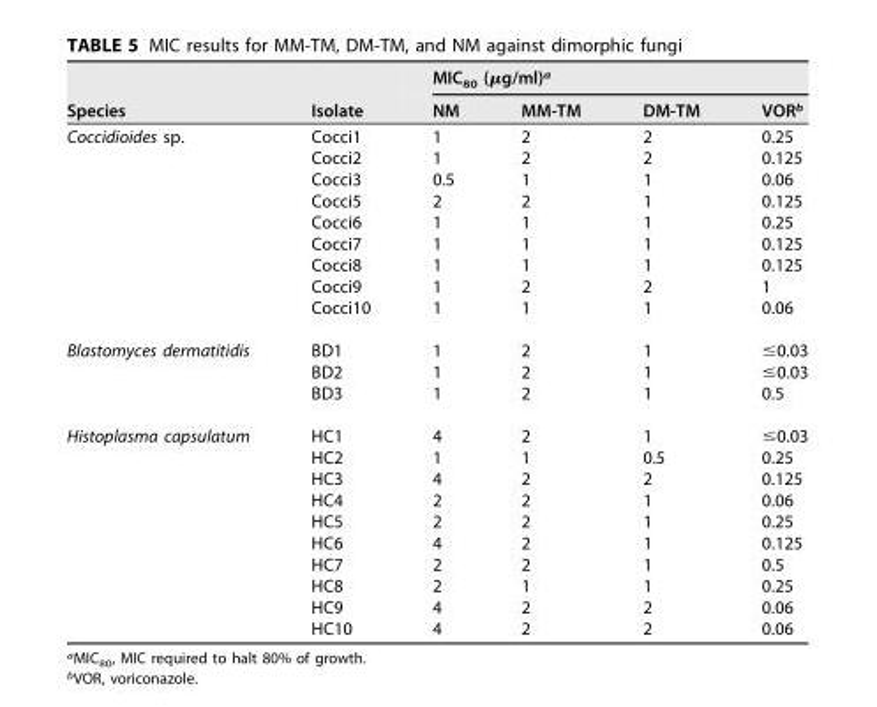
<table><thead><tr><td rowspan="2">Species</td><td rowspan="2">Isolate</td><td colspan="4">MIC<sub>80</sub> (µg/ml)<sup>a</sup></td></tr><tr><td>NM</td><td>MM-TM</td><td>DM-TM</td><td>VOR<sup>b</sup></td></tr></thead><tbody><tr><td rowspan="9">Coccidioides sp.</td><td>Cocci1</td><td>1</td><td>2</td><td>2</td><td>0.25</td></tr><tr><td>Cocci2</td><td>1</td><td>2</td><td>2</td><td>0.125</td></tr><tr><td>Cocci3</td><td>0.5</td><td>1</td><td>1</td><td>0.06</td></tr><tr><td>Cocci5</td><td>2</td><td>2</td><td>1</td><td>0.125</td></tr><tr><td>Cocci6</td><td>1</td><td>1</td><td>1</td><td>0.25</td></tr><tr><td>Cocci7</td><td>1</td><td>1</td><td>1</td><td>0.125</td></tr><tr><td>Cocci8</td><td>1</td><td>1</td><td>1</td><td>0.125</td></tr><tr><td>Cocci9</td><td>1</td><td>2</td><td>2</td><td>1</td></tr><tr><td>Cocci10</td><td>1</td><td>1</td><td>1</td><td>0.06</td></tr><tr><td rowspan="3">Blastomyces dermatitidis</td><td>BD1</td><td>1</td><td>2</td><td>1</td><td>≤0.03</td></tr><tr><td>BD2</td><td>1</td><td>2</td><td>1</td><td>≤0.03</td></tr><tr><td>BD3</td><td>1</td><td>2</td><td>1</td><td>0.5</td></tr><tr><td rowspan="10">Histoplasma capsulatum</td><td>HC1</td><td>4</td><td>2</td><td>1</td><td>≤0.03</td></tr><tr><td>HC2</td><td>1</td><td>1</td><td>0.5</td><td>0.25</td></tr><tr><td>HC3</td><td>4</td><td>2</td><td>2</td><td>0.125</td></tr><tr><td>HC4</td><td>2</td><td>2</td><td>1</td><td>0.06</td></tr><tr><td>HC5</td><td>2</td><td>2</td><td>1</td><td>0.25</td></tr><tr><td>HC6</td><td>4</td><td>2</td><td>1</td><td>0.125</td></tr><tr><td>HC7</td><td>2</td><td>2</td><td>1</td><td>0.5</td></tr><tr><td>HC8</td><td>2</td><td>1</td><td>1</td><td>0.25</td></tr><tr><td>HC9</td><td>4</td><td>2</td><td>2</td><td>0.06</td></tr><tr><td>HC10</td><td>4</td><td>2</td><td>2</td><td>0.06</td></tr></tbody></table>